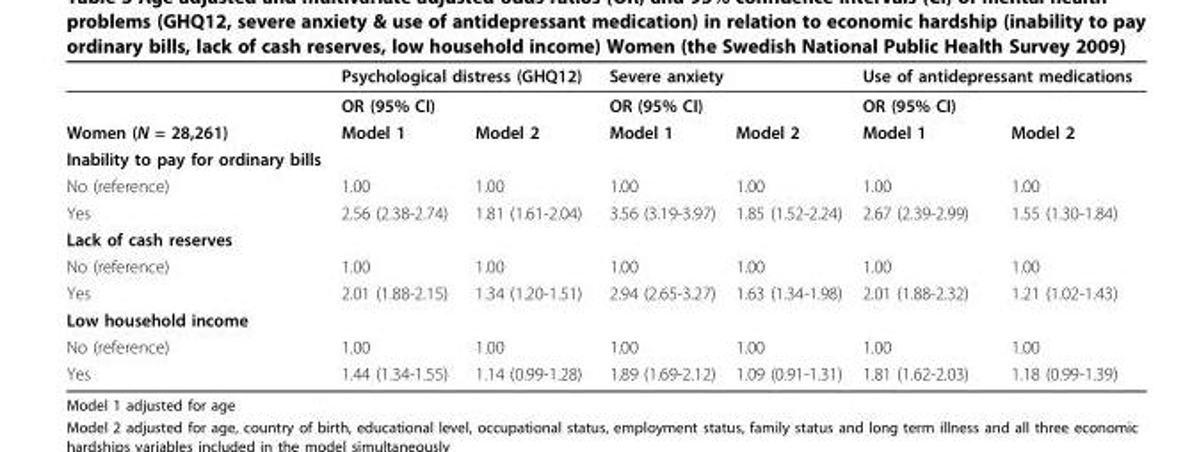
<table><thead><tr><td rowspan="3">Women (N = 28,261)</td><td rowspan="2" colspan="2">Psychological distress (GHQ12) OR (95% CI)</td><td rowspan="2" colspan="2">Severe anxiety OR (95% CI)</td><td rowspan="2" colspan="2">Use of antidepressant medications OR (95% CI)</td></tr><tr></tr><tr><td>Model 1</td><td>Model 2</td><td>Model 1</td><td>Model 2</td><td>Model 1</td><td>Model 2</td></tr></thead><tbody><tr><td colspan="7">Inability to pay for ordinary bills</td></tr><tr><td>No (reference)</td><td>1.00</td><td>1.00</td><td>1.00</td><td>1.00</td><td>1.00</td><td>1.00</td></tr><tr><td>Yes</td><td>2.56 (2.38-2.74)</td><td>1.81 (1.61-2.04)</td><td>3.56 (3.19-3.97)</td><td>1.85 (1.52-2.24)</td><td>2.67 (2.39-2.99)</td><td>1.55 (1.30-1.84)</td></tr><tr><td colspan="7">Lack of cash reserves</td></tr><tr><td>No (reference)</td><td>1.00</td><td>1.00</td><td>1.00</td><td>1.00</td><td>1.00</td><td>1.00</td></tr><tr><td>Yes</td><td>2.01 (1.88-2.15)</td><td>1.34 (1.20-1.51)</td><td>2.94 (2.65-3.27)</td><td>1.63 (1.34-1.98)</td><td>2.01 (1.88-2.32)</td><td>1.21 (1.02-1.43)</td></tr><tr><td colspan="7">Low household income</td></tr><tr><td>No (reference)</td><td>1.00</td><td>1.00</td><td>1.00</td><td>1.00</td><td>1.00</td><td>1.00</td></tr><tr><td>Yes</td><td>1.44 (1.34-1.55)</td><td>1.14 (0.99-1.28)</td><td>1.89 (1.69-2.12)</td><td>1.09 (0.91-1.31)</td><td>1.81 (1.62-2.03)</td><td>1.18 (0.99-1.39)</td></tr></tbody></table>